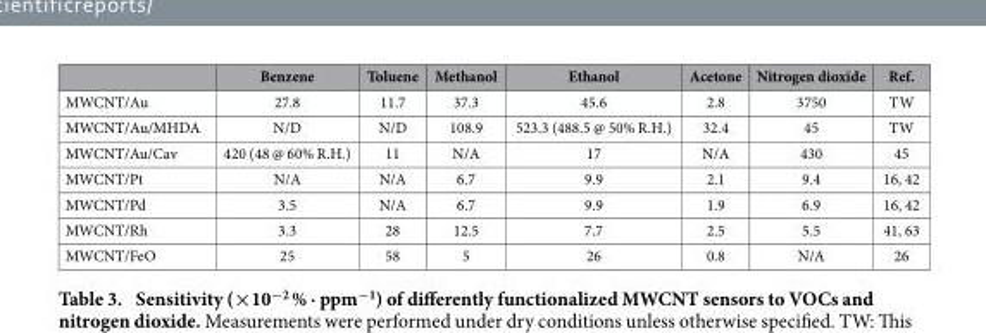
<table><thead><tr><td></td><td>Benzene</td><td>Toluene</td><td>Methanol</td><td>Ethanol</td><td>Acetone</td><td>Nitrogen dioxide</td><td>Ref.</td></tr></thead><tbody><tr><td>MWCNT/Au</td><td>27.8</td><td>11.7</td><td>37.3</td><td>45.6</td><td>2.8</td><td>3750</td><td>TW</td></tr><tr><td>MWCNT/Au/MHDA</td><td>N/D</td><td>N/D</td><td>108.9</td><td>523.3 (488.5 @ 50% R.H.)</td><td>32.4</td><td>45</td><td>TW</td></tr><tr><td>MWCNT/Au/Cav</td><td>420 (48 @ 60% R.H.)</td><td>11</td><td>N/A</td><td>17</td><td>N/A</td><td>430</td><td>45</td></tr><tr><td>MWCNT/Pt</td><td>N/A</td><td>N/A</td><td>6.7</td><td>9.9</td><td>2.1</td><td>9.4</td><td>16, 42</td></tr><tr><td>MWCNT/Pd</td><td>3.5</td><td>N/A</td><td>6.7</td><td>9.9</td><td>1.9</td><td>6.9</td><td>16, 42</td></tr><tr><td>MWCNT/Rh</td><td>3.3</td><td>28</td><td>12.5</td><td>7.7</td><td>2.5</td><td>5.5</td><td>41, 63</td></tr><tr><td>MWCNT/FeO</td><td>25</td><td>58</td><td>5</td><td>26</td><td>0.8</td><td>N/A</td><td>26</td></tr></tbody></table>